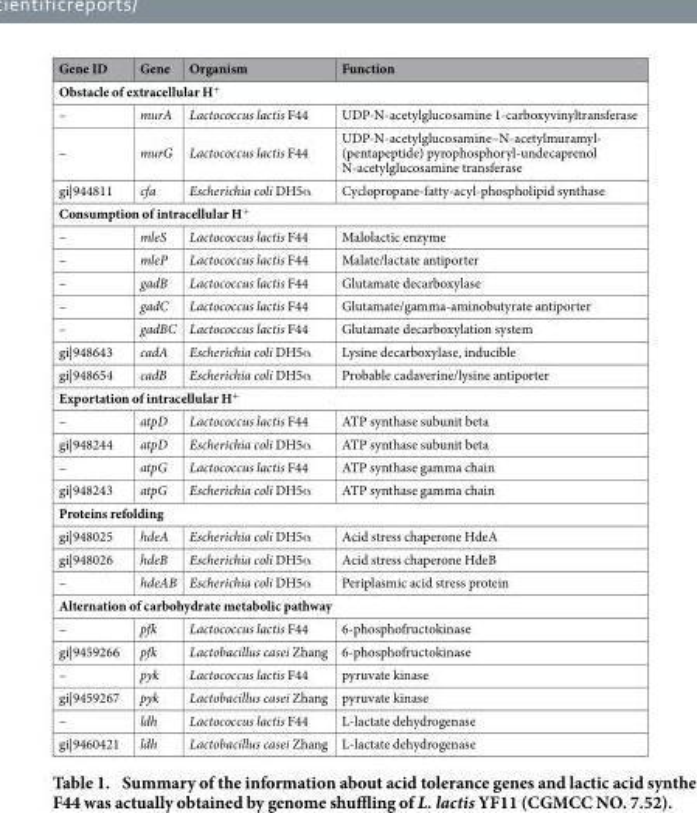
<table><thead><tr><td>Gene ID</td><td>Gene</td><td>Organism</td><td>Function</td></tr></thead><tbody><tr><td colspan="4">Obstacle of extracellular H<sup>+</sup></td></tr><tr><td>–</td><td>murA</td><td>Lactococcus lactis F44</td><td>UDP-N-acetylglucosamine 1-carboxyvinyltransferase</td></tr><tr><td>–</td><td>murG</td><td>Lactococcus lactis F44</td><td>UDP-N-acetylglucosamine–N-acetylmuramyl- (pentapeptide) pyrophosphoryl-undecaprenol N-acetylglucosamine transferase</td></tr><tr><td>gi|944811</td><td>cfa</td><td>Escherichia coli DH5α</td><td>Cyclopropane-fatty-acyl-phospholipid synthase</td></tr><tr><td colspan="4">Consumption of intracellular H<sup>+</sup></td></tr><tr><td>–</td><td>mleS</td><td>Lactococcus lactis F44</td><td>Malolactic enzyme</td></tr><tr><td>–</td><td>mleP</td><td>Lactococcus lactis F44</td><td>Malate/lactate antiporter</td></tr><tr><td>–</td><td>gadB</td><td>Lactococcus lactis F44</td><td>Glutamate decarboxylase</td></tr><tr><td>–</td><td>gadC</td><td>Lactococcus lactis F44</td><td>Glutamate/gamma-aminobutyrate antiporter</td></tr><tr><td>–</td><td>gadBC</td><td>Lactococcus lactis F44</td><td>Glutamate decarboxylation system</td></tr><tr><td>gi|948643</td><td>cadA</td><td>Escherichia coli DH5α</td><td>Lysine decarboxylase, inducible</td></tr><tr><td>gi|948654</td><td>cadB</td><td>Escherichia coli DH5α</td><td>Probable cadaverine/lysine antiporter</td></tr><tr><td colspan="4">Exportation of intracellular H<sup>+</sup></td></tr><tr><td>–</td><td>atpD</td><td>Lactococcus lactis F44</td><td>ATP synthase subunit beta</td></tr><tr><td>gi|948244</td><td>atpD</td><td>Escherichia coli DH5α</td><td>ATP synthase subunit beta</td></tr><tr><td>–</td><td>atpG</td><td>Lactococcus lactis F44</td><td>ATP synthase gamma chain</td></tr><tr><td>gi|948243</td><td>atpG</td><td>Escherichia coli DH5α</td><td>ATP synthase gamma chain</td></tr><tr><td colspan="4">Proteins refolding</td></tr><tr><td>gi|948025</td><td>hdeA</td><td>Escherichia coli DH5α</td><td>Acid stress chaperone HdeA</td></tr><tr><td>gi|948026</td><td>hdeB</td><td>Escherichia coli DH5α</td><td>Acid stress chaperone HdeB</td></tr><tr><td>–</td><td>hdeAB</td><td>Escherichia coli DH5α</td><td>Periplasmic acid stress protein</td></tr><tr><td colspan="4">Alternation of carbohydrate metabolic pathway</td></tr><tr><td>–</td><td>pfk</td><td>Lactococcus lactis F44</td><td>6-phosphofructokinase</td></tr><tr><td>gi|9459266</td><td>pfk</td><td>Lactobacillus casei Zhang</td><td>6-phosphofructokinase</td></tr><tr><td>–</td><td>pyk</td><td>Lactococcus lactis F44</td><td>pyruvate kinase</td></tr><tr><td>gi|9459267</td><td>pyk</td><td>Lactobacillus casei Zhang</td><td>pyruvate kinase</td></tr><tr><td>–</td><td>ldh</td><td>Lactococcus lactis F44</td><td>L-lactate dehydrogenase</td></tr><tr><td>gi|9460421</td><td>ldh</td><td>Lactobacillus casei Zhang</td><td>L-lactate dehydrogenase</td></tr></tbody></table>